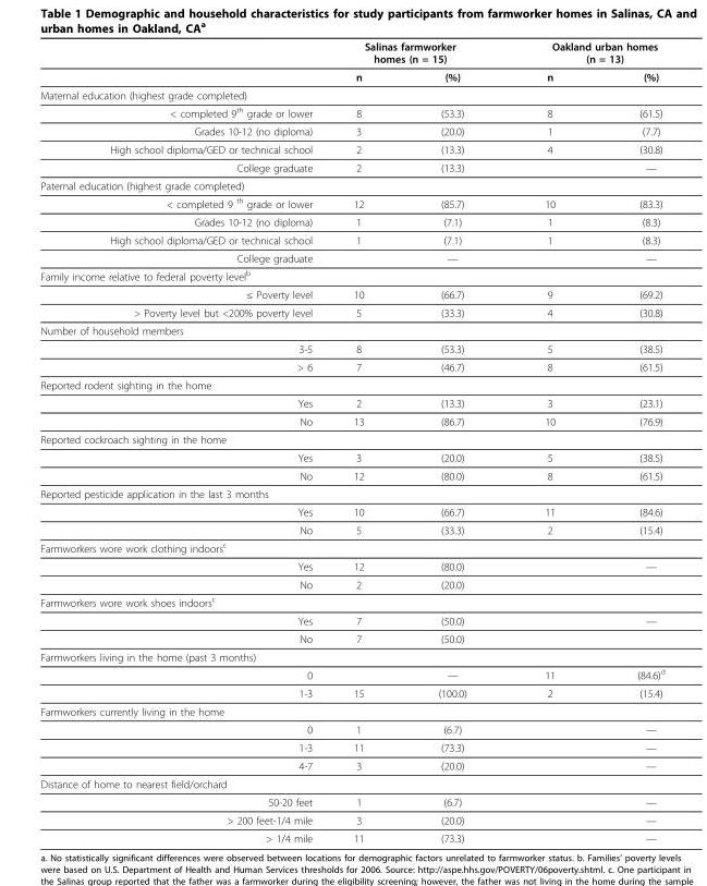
<table><thead><tr><td rowspan="2"></td><td colspan="2">Salinas farmworker homes (n = 15)</td><td colspan="2">Oakland urban homes (n = 13)</td></tr><tr><td>n</td><td>(%)</td><td>n</td><td>(%)</td></tr></thead><tbody><tr><td colspan="5">Maternal education (highest grade completed)</td></tr><tr><td>&lt; completed 9th grade or lower</td><td>8</td><td>(53.3)</td><td>8</td><td>(61.5)</td></tr><tr><td>Grades 10-12 (no diploma)</td><td>3</td><td>(20.0)</td><td>1</td><td>(7.7)</td></tr><tr><td>High school diploma/GED or technical school</td><td>2</td><td>(13.3)</td><td>4</td><td>(30.8)</td></tr><tr><td>College graduate</td><td>2</td><td>(13.3)</td><td></td><td>—</td></tr><tr><td colspan="5">Paternal education (highest grade completed)</td></tr><tr><td>&lt; completed 9 th grade or lower</td><td>12</td><td>(85.7)</td><td>10</td><td>(83.3)</td></tr><tr><td>Grades 10-12 (no diploma)</td><td>1</td><td>(7.1)</td><td>1</td><td>(8.3)</td></tr><tr><td>High school diploma/GED or technical school</td><td>1</td><td>(7.1)</td><td>1</td><td>(8.3)</td></tr><tr><td>College graduate</td><td></td><td>—</td><td></td><td>—</td></tr><tr><td colspan="5">Family income relative to federal poverty levelb</td></tr><tr><td>≤ Poverty level</td><td>10</td><td>(66.7)</td><td>9</td><td>(69.2)</td></tr><tr><td>&gt; Poverty level but &lt;200% poverty level</td><td>5</td><td>(33.3)</td><td>4</td><td>(30.8)</td></tr><tr><td colspan="5">Number of household members</td></tr><tr><td>3-5</td><td>8</td><td>(53.3)</td><td>5</td><td>(38.5)</td></tr><tr><td>&gt; 6</td><td>7</td><td>(46.7)</td><td>8</td><td>(61.5)</td></tr><tr><td colspan="5">Reported rodent sighting in the home</td></tr><tr><td>Yes</td><td>2</td><td>(13.3)</td><td>3</td><td>(23.1)</td></tr><tr><td>No</td><td>13</td><td>(86.7)</td><td>10</td><td>(76.9)</td></tr><tr><td colspan="5">Reported cockroach sighting in the home</td></tr><tr><td>Yes</td><td>3</td><td>(20.0)</td><td>5</td><td>(38.5)</td></tr><tr><td>No</td><td>12</td><td>(80.0)</td><td>8</td><td>(61.5)</td></tr><tr><td colspan="5">Reported pesticide application in the last 3 months</td></tr><tr><td>Yes</td><td>10</td><td>(66.7)</td><td>11</td><td>(84.6)</td></tr><tr><td>No</td><td>5</td><td>(33.3)</td><td>2</td><td>(15.4)</td></tr><tr><td colspan="5">Farmworkers wore work clothing indoorsc</td></tr><tr><td>Yes</td><td>12</td><td>(80.0)</td><td></td><td>—</td></tr><tr><td>No</td><td>2</td><td>(20.0)</td><td></td><td></td></tr><tr><td colspan="5">Farmworkers wore work shoes indoorsc</td></tr><tr><td>Yes</td><td>7</td><td>(50.0)</td><td></td><td>—</td></tr><tr><td>No</td><td>7</td><td>(50.0)</td><td></td><td></td></tr><tr><td colspan="5">Farmworkers living in the home (past 3 months)</td></tr><tr><td>0</td><td></td><td>—</td><td>11</td><td>(84.6)d</td></tr><tr><td>1-3</td><td>15</td><td>(100.0)</td><td>2</td><td>(15.4)</td></tr><tr><td colspan="5">Farmworkers currently living in the home</td></tr><tr><td>0</td><td>1</td><td>(6.7)</td><td></td><td>—</td></tr><tr><td>1-3</td><td>11</td><td>(73.3)</td><td></td><td>—</td></tr><tr><td>4-7</td><td>3</td><td>(20.0)</td><td></td><td>—</td></tr><tr><td colspan="5">Distance of home to nearest field/orchard</td></tr><tr><td>50-20 feet</td><td>1</td><td>(6.7)</td><td></td><td>—</td></tr><tr><td>&gt; 200 feet-1/4 mile</td><td>3</td><td>(20.0)</td><td></td><td>—</td></tr><tr><td>&gt; 1/4 mile</td><td>11</td><td>(73.3)</td><td></td><td>—</td></tr></tbody></table>